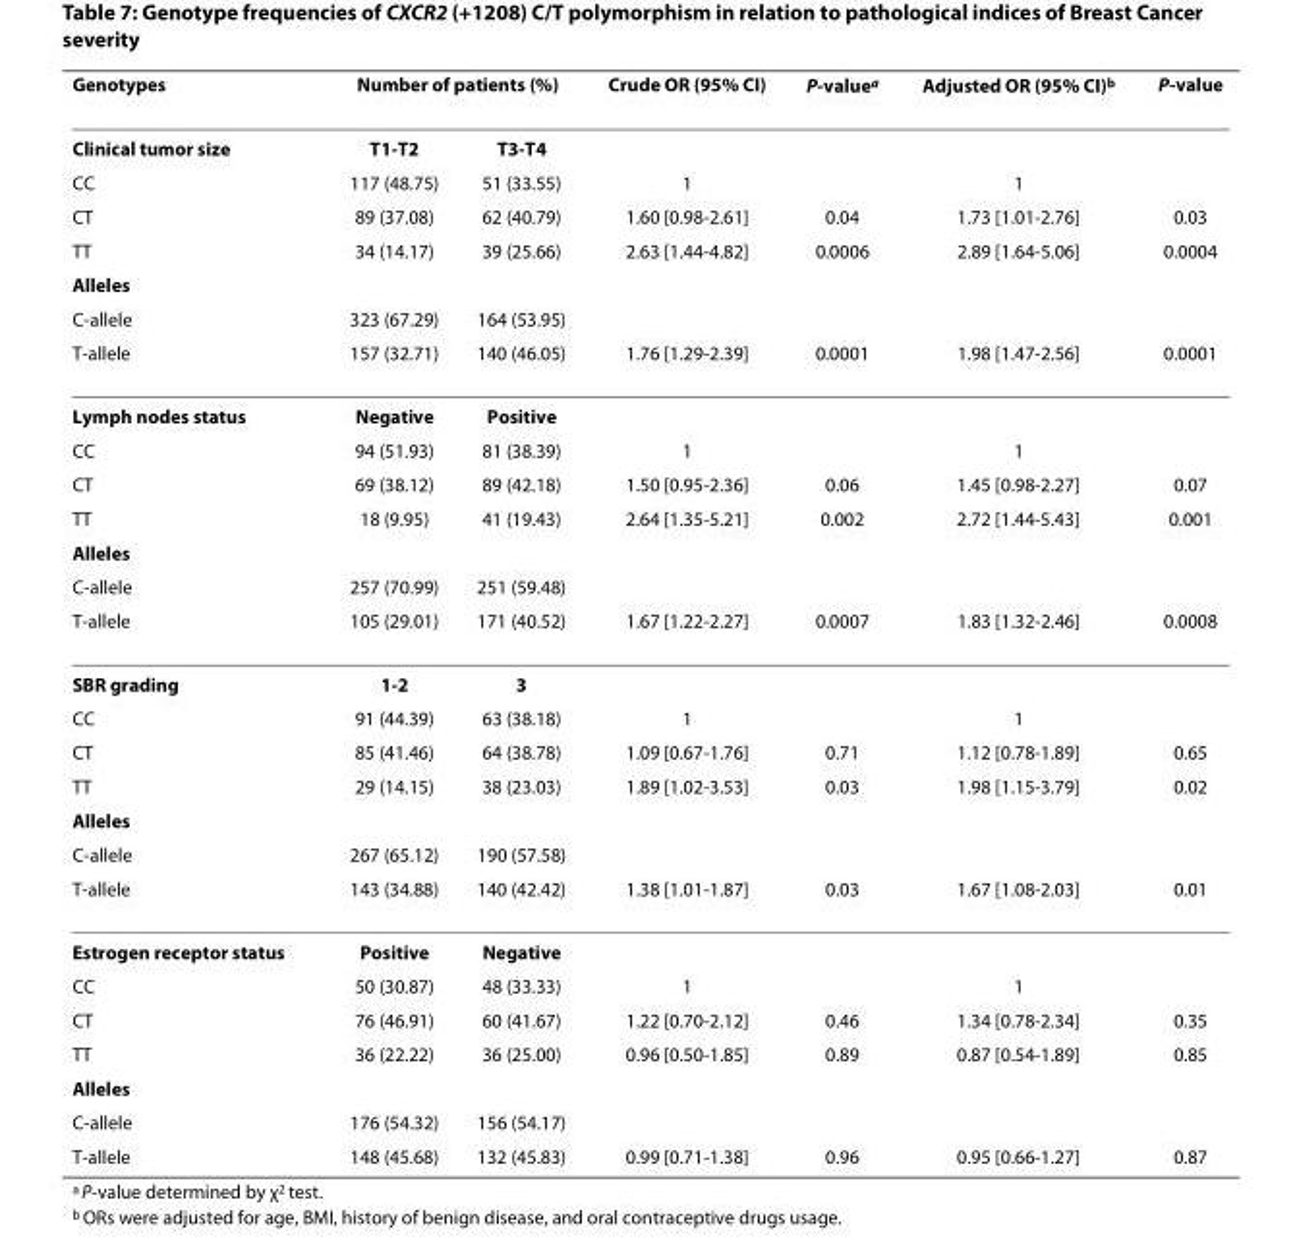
<table><thead><tr><td rowspan="2">Genotypes Clinical tumor size</td><td colspan="2">Number of patients (%)</td><td rowspan="2">Crude OR (95% CI)</td><td rowspan="2">P-valuea</td><td rowspan="2">Adjusted OR (95% CI)b</td><td rowspan="2">P-value</td></tr><tr><td>T1-T2</td><td>T3-T4</td></tr></thead><tbody><tr><td>CC</td><td>117 (48.75)</td><td>51 (33.55)</td><td>1</td><td></td><td>1</td><td></td></tr><tr><td>CT</td><td>89 (37.08)</td><td>62 (40.79)</td><td>1.60 [0.98-2.61]</td><td>0.04</td><td>1.73 [1.01-2.76]</td><td>0.03</td></tr><tr><td>TT</td><td>34 (14.17)</td><td>39 (25.66)</td><td>2.63 [1.44-4.82]</td><td>0.0006</td><td>2.89 [1.64-5.06]</td><td>0.0004</td></tr><tr><td colspan="7">Alleles</td></tr><tr><td>C-allele</td><td>323 (67.29)</td><td>164 (53.95)</td><td></td><td></td><td></td><td></td></tr><tr><td>T-allele</td><td>157 (32.71)</td><td>140 (46.05)</td><td>1.76 [1.29-2.39]</td><td>0.0001</td><td>1.98 [1.47-2.56]</td><td>0.0001</td></tr><tr><td>Lymph nodes status</td><td>Negative</td><td>Positive</td><td></td><td></td><td></td><td></td></tr><tr><td>CC</td><td>94 (51.93)</td><td>81 (38.39)</td><td>1</td><td></td><td>1</td><td></td></tr><tr><td>CT</td><td>69 (38.12)</td><td>89 (42.18)</td><td>1.50 [0.95-2.36]</td><td>0.06</td><td>1.45 [0.98-2.27]</td><td>0.07</td></tr><tr><td>TT</td><td>18 (9.95)</td><td>41 (19.43)</td><td>2.64 [1.35-5.21]</td><td>0.002</td><td>2.72 [1.44-5.43]</td><td>0.001</td></tr><tr><td colspan="7">Alleles</td></tr><tr><td>C-allele</td><td>257 (70.99)</td><td>251 (59.48)</td><td></td><td></td><td></td><td></td></tr><tr><td>T-allele</td><td>105 (29.01)</td><td>171 (40.52)</td><td>1.67 [1.22-2.27]</td><td>0.0007</td><td>1.83 [1.32-2.46]</td><td>0.0008</td></tr><tr><td>SBR grading</td><td>1-2</td><td>3</td><td></td><td></td><td></td><td></td></tr><tr><td>CC</td><td>91 (44.39)</td><td>63 (38.18)</td><td>1</td><td></td><td>1</td><td></td></tr><tr><td>CT</td><td>85 (41.46)</td><td>64 (38.78)</td><td>1.09 [0.67-1.76]</td><td>0.71</td><td>1.12 [0.78-1.89]</td><td>0.65</td></tr><tr><td>TT</td><td>29 (14.15)</td><td>38 (23.03)</td><td>1.89 [1.02-3.53]</td><td>0.03</td><td>1.98 [1.15-3.79]</td><td>0.02</td></tr><tr><td colspan="7">Alleles</td></tr><tr><td>C-allele</td><td>267 (65.12)</td><td>190 (57.58)</td><td></td><td></td><td></td><td></td></tr><tr><td>T-allele</td><td>143 (34.88)</td><td>140 (42.42)</td><td>1.38 [1.01-1.87]</td><td>0.03</td><td>1.67 [1.08-2.03]</td><td>0.01</td></tr><tr><td>Estrogen receptor status</td><td>Positive</td><td>Negative</td><td></td><td></td><td></td><td></td></tr><tr><td>CC</td><td>50 (30.87)</td><td>48 (33.33)</td><td>1</td><td></td><td>1</td><td></td></tr><tr><td>CT</td><td>76 (46.91)</td><td>60 (41.67)</td><td>1.22 [0.70-2.12]</td><td>0.46</td><td>1.34 [0.78-2.34]</td><td>0.35</td></tr><tr><td>TT</td><td>36 (22.22)</td><td>36 (25.00)</td><td>0.96 [0.50-1.85]</td><td>0.89</td><td>0.87 [0.54-1.89]</td><td>0.85</td></tr><tr><td colspan="7">Alleles</td></tr><tr><td>C-allele</td><td>176 (54.32)</td><td>156 (54.17)</td><td></td><td></td><td></td><td></td></tr><tr><td>T-allele</td><td>148 (45.68)</td><td>132 (45.83)</td><td>0.99 [0.71-1.38]</td><td>0.96</td><td>0.95 [0.66-1.27]</td><td>0.87</td></tr></tbody></table>